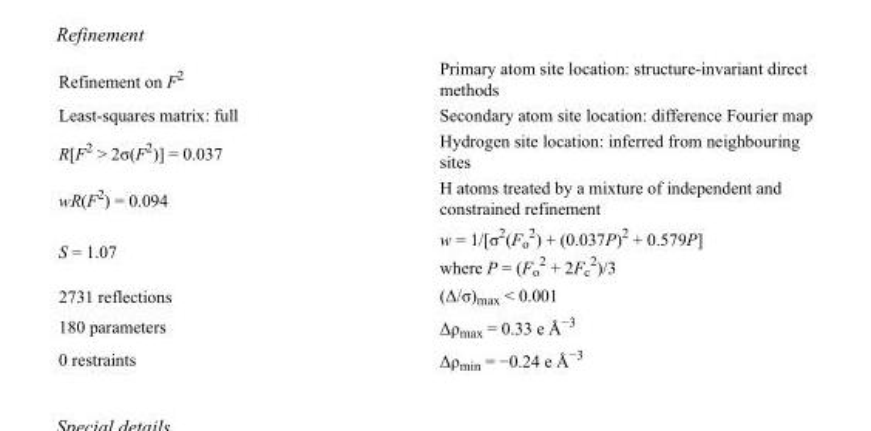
<table><tbody><tr><td>Refinement on F<sup>2</sup></td><td>Primary atom site location: structure-invariant direct methods</td></tr><tr><td>Least-squares matrix: full</td><td>Secondary atom site location: difference Fourier map</td></tr><tr><td>R[F<sup>2</sup> &gt; 2σ(F<sup>2</sup>)] = 0.037</td><td>Hydrogen site location: inferred from neighbouring sites</td></tr><tr><td>wR(F<sup>2</sup>) = 0.094</td><td>H atoms treated by a mixture of independent and constrained refinement</td></tr><tr><td>S = 1.07</td><td>w = 1/[σ<sup>2</sup>(F<sub>o</sub> <sup>2</sup>) + (0.037P)<sup>2</sup> + 0.579P] where P = (F<sub>o</sub> <sup>2</sup> + 2F<sub>c</sub> <sup>2</sup>)/3</td></tr><tr><td>2731 reflections</td><td>(Δ/σ)<sub>max</sub> &lt; 0.001</td></tr><tr><td>180 parameters</td><td>Δρ<sub>max</sub> = 0.33 e Å<sup>−3</sup></td></tr><tr><td>0 restraints</td><td>Δρ<sub>min</sub> = −0.24 e Å<sup>−3</sup></td></tr></tbody></table>